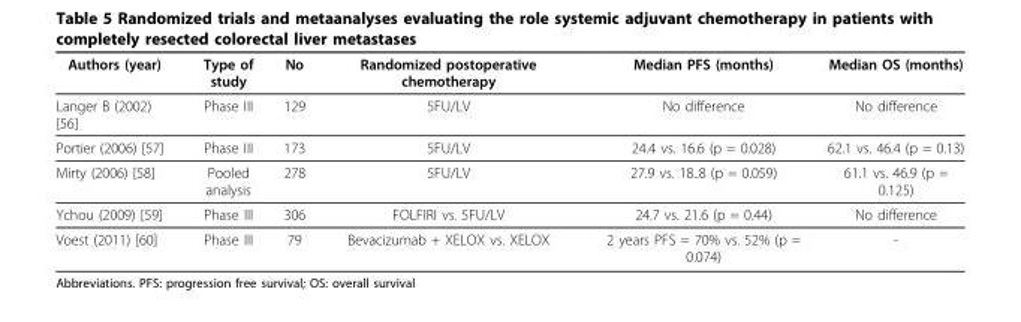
<table><thead><tr><td>Authors (year)</td><td>Type of study</td><td>No</td><td>Randomized postoperative chemotherapy</td><td>Median PFS (months)</td><td>Median OS (months)</td></tr></thead><tbody><tr><td>Langer B (2002) [56]</td><td>Phase III</td><td>129</td><td>5FU/LV</td><td>No difference</td><td>No difference</td></tr><tr><td>Portier (2006) [57]</td><td>Phase III</td><td>173</td><td>5FU/LV</td><td>24.4 vs. 16.6 (p = 0.028)</td><td>62.1 vs. 46.4 (p = 0.13)</td></tr><tr><td>Mirty (2006) [58]</td><td>Pooled analysis</td><td>278</td><td>5FU/LV</td><td>27.9 vs. 18..8 (p = 0.059)</td><td>61.1 vs. 46.9 (p = 0.125)</td></tr><tr><td>Ychou (2009) [59]</td><td>Phase III</td><td>306</td><td>FOLFIRI vs. 5FU/LV</td><td>24.7 vs. 21.6 (p = 0.44)</td><td>No difference</td></tr><tr><td>Voest (2011) [60]</td><td>Phase III</td><td>79</td><td>Bevacizumab + XELOX vs. XELOX</td><td>2 years PFS = 70% vs. 52% (p = 0.074)</td><td>-</td></tr></tbody></table>